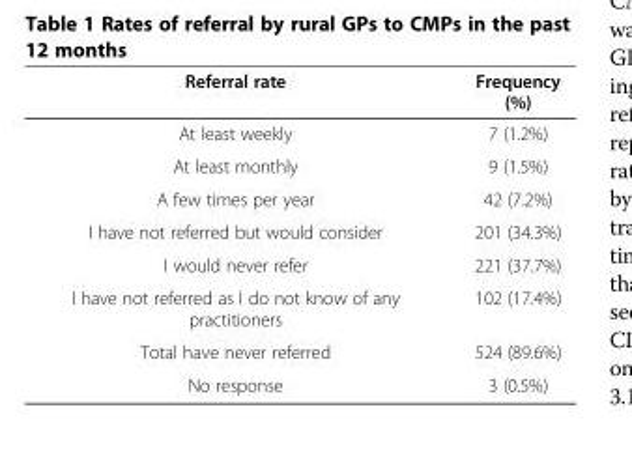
<table><thead><tr><td>Referral rate</td><td>Frequency (%)</td></tr></thead><tbody><tr><td>At least weekly</td><td>7 (1.2%)</td></tr><tr><td>At least monthly</td><td>9 (1.5%)</td></tr><tr><td>A few times per year</td><td>42 (7.2%)</td></tr><tr><td>I have not referred but would consider</td><td>201 (34.3%)</td></tr><tr><td>I would never refer</td><td>221 (37.7%)</td></tr><tr><td>I have not referred as I do not know of any practitioners</td><td>102 (17.4%)</td></tr><tr><td>Total have never referred</td><td>524 (89.6%)</td></tr><tr><td>No response</td><td>3 (0.5%)</td></tr></tbody></table>